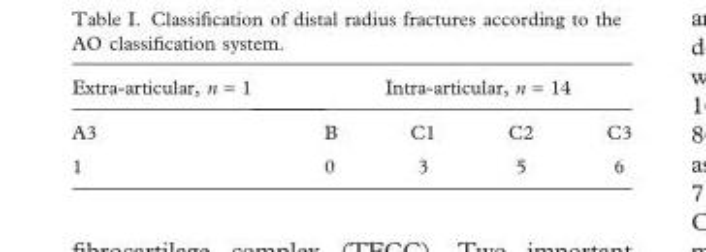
<table><thead><tr><td rowspan="2">Extra-articular, n = 1 A3</td><td colspan="4">Intra-articular, n = 14</td></tr><tr><td>B</td><td>C1</td><td>C2</td><td>C3</td></tr></thead><tbody><tr><td>1</td><td>0</td><td>3</td><td>5</td><td>6</td></tr></tbody></table>